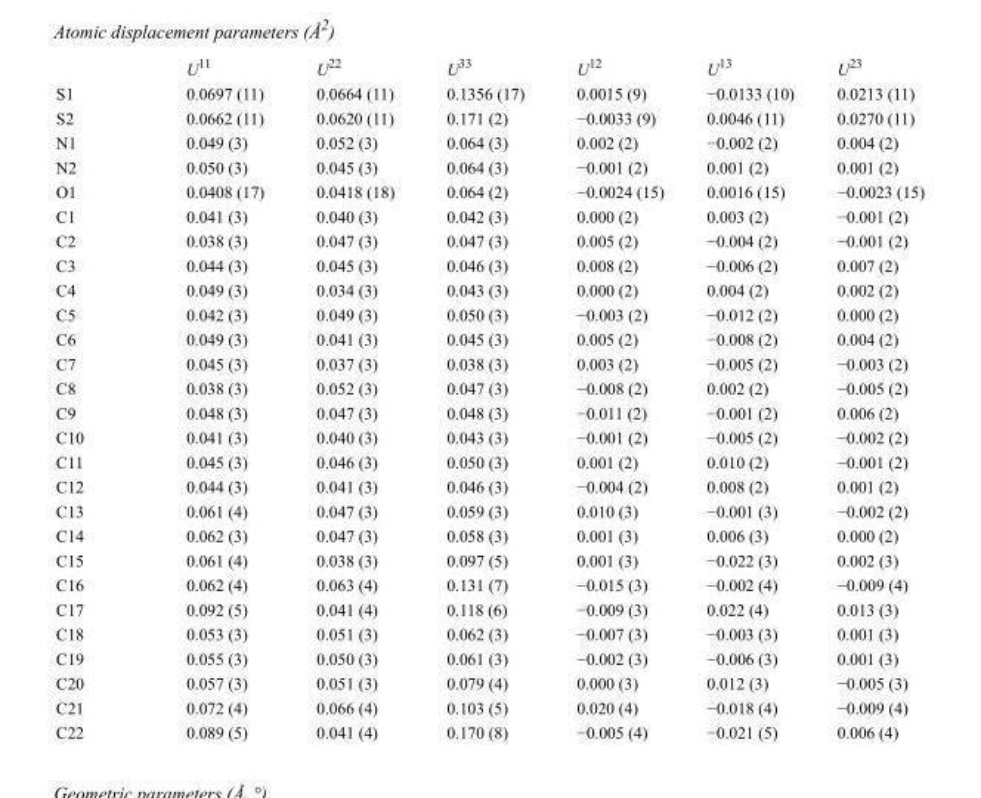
<table><thead><tr><td></td><td>U<sup>11</sup></td><td>U<sup>22</sup></td><td>U<sup>33</sup></td><td>U<sup>12</sup></td><td>U<sup>13</sup></td><td>U<sup>23</sup></td></tr></thead><tbody><tr><td>S1</td><td>0.0697 (11)</td><td>0.0664 (11)</td><td>0.1356 (17)</td><td>0.0015 (9)</td><td>−0.0133 (10)</td><td>0.0213 (11)</td></tr><tr><td>S2</td><td>0.0662 (11)</td><td>0.0620 (11)</td><td>0.171 (2)</td><td>−0.0033 (9)</td><td>0.0046 (11)</td><td>0.0270 (11)</td></tr><tr><td>N1</td><td>0.049 (3)</td><td>0.052 (3)</td><td>0.064 (3)</td><td>0.002 (2)</td><td>−0.002 (2)</td><td>0.004 (2)</td></tr><tr><td>N2</td><td>0.050 (3)</td><td>0.045 (3)</td><td>0.064 (3)</td><td>−0.001 (2)</td><td>0.001 (2)</td><td>0.001 (2)</td></tr><tr><td>O1</td><td>0.0408 (17)</td><td>0.0418 (18)</td><td>0.064 (2)</td><td>−0.0024 (15)</td><td>0.0016 (15)</td><td>−0.0023 (15)</td></tr><tr><td>C1</td><td>0.041 (3)</td><td>0.040 (3)</td><td>0.042 (3)</td><td>0.000 (2)</td><td>0.003 (2)</td><td>−0.001 (2)</td></tr><tr><td>C2</td><td>0.038 (3)</td><td>0.047 (3)</td><td>0.047 (3)</td><td>0.005 (2)</td><td>−0.004 (2)</td><td>−0.001 (2)</td></tr><tr><td>C3</td><td>0.044 (3)</td><td>0.045 (3)</td><td>0.046 (3)</td><td>0.008 (2)</td><td>−0.006 (2)</td><td>0.007 (2)</td></tr><tr><td>C4</td><td>0.049 (3)</td><td>0.034 (3)</td><td>0.043 (3)</td><td>0.000 (2)</td><td>0.004 (2)</td><td>0.002 (2)</td></tr><tr><td>C5</td><td>0.042 (3)</td><td>0.049 (3)</td><td>0.050 (3)</td><td>−0.003 (2)</td><td>−0.012 (2)</td><td>0.000 (2)</td></tr><tr><td>C6</td><td>0.049 (3)</td><td>0.041 (3)</td><td>0.045 (3)</td><td>0.005 (2)</td><td>−0.008 (2)</td><td>0.004 (2)</td></tr><tr><td>C7</td><td>0.045 (3)</td><td>0.037 (3)</td><td>0.038 (3)</td><td>0.003 (2)</td><td>−0.005 (2)</td><td>−0.003 (2)</td></tr><tr><td>C8</td><td>0.038 (3)</td><td>0.052 (3)</td><td>0.047 (3)</td><td>−0.008 (2)</td><td>0.002 (2)</td><td>−0.005 (2)</td></tr><tr><td>C9</td><td>0.048 (3)</td><td>0.047 (3)</td><td>0.048 (3)</td><td>−0.011 (2)</td><td>−0.001 (2)</td><td>0.006 (2)</td></tr><tr><td>C10</td><td>0.041 (3)</td><td>0.040 (3)</td><td>0.043 (3)</td><td>−0.001 (2)</td><td>−0.005 (2)</td><td>−0.002 (2)</td></tr><tr><td>C11</td><td>0.045 (3)</td><td>0.046 (3)</td><td>0.050 (3)</td><td>0.001 (2)</td><td>0.010 (2)</td><td>−0.001 (2)</td></tr><tr><td>C12</td><td>0.044 (3)</td><td>0.041 (3)</td><td>0.046 (3)</td><td>−0.004 (2)</td><td>0.008 (2)</td><td>0.001 (2)</td></tr><tr><td>C13</td><td>0.061 (4)</td><td>0.047 (3)</td><td>0.059 (3)</td><td>0.010 (3)</td><td>−0.001 (3)</td><td>−0.002 (2)</td></tr><tr><td>C14</td><td>0.062 (3)</td><td>0.047 (3)</td><td>0.058 (3)</td><td>0.001 (3)</td><td>0.006 (3)</td><td>0.000 (2)</td></tr><tr><td>C15</td><td>0.061 (4)</td><td>0.038 (3)</td><td>0.097 (5)</td><td>0.001 (3)</td><td>−0.022 (3)</td><td>0.002 (3)</td></tr><tr><td>C16</td><td>0.062 (4)</td><td>0.063 (4)</td><td>0.131 (7)</td><td>−0.015 (3)</td><td>−0.002 (4)</td><td>−0.009 (4)</td></tr><tr><td>C17</td><td>0.092 (5)</td><td>0.041 (4)</td><td>0.118 (6)</td><td>−0.009 (3)</td><td>0.022 (4)</td><td>0.013 (3)</td></tr><tr><td>C18</td><td>0.053 (3)</td><td>0.051 (3)</td><td>0.062 (3)</td><td>−0.007 (3)</td><td>−0.003 (3)</td><td>0.001 (3)</td></tr><tr><td>C19</td><td>0.055 (3)</td><td>0.050 (3)</td><td>0.061 (3)</td><td>−0.002 (3)</td><td>−0.006 (3)</td><td>0.001 (3)</td></tr><tr><td>C20</td><td>0.057 (3)</td><td>0.051 (3)</td><td>0.079 (4)</td><td>0.000 (3)</td><td>0.012 (3)</td><td>−0.005 (3)</td></tr><tr><td>C21</td><td>0.072 (4)</td><td>0.066 (4)</td><td>0.103 (5)</td><td>0.020 (4)</td><td>−0.018 (4)</td><td>−0.009 (4)</td></tr><tr><td>C22</td><td>0.089 (5)</td><td>0.041 (4)</td><td>0.170 (8)</td><td>−0.005 (4)</td><td>−0.021 (5)</td><td>0.006 (4)</td></tr></tbody></table>